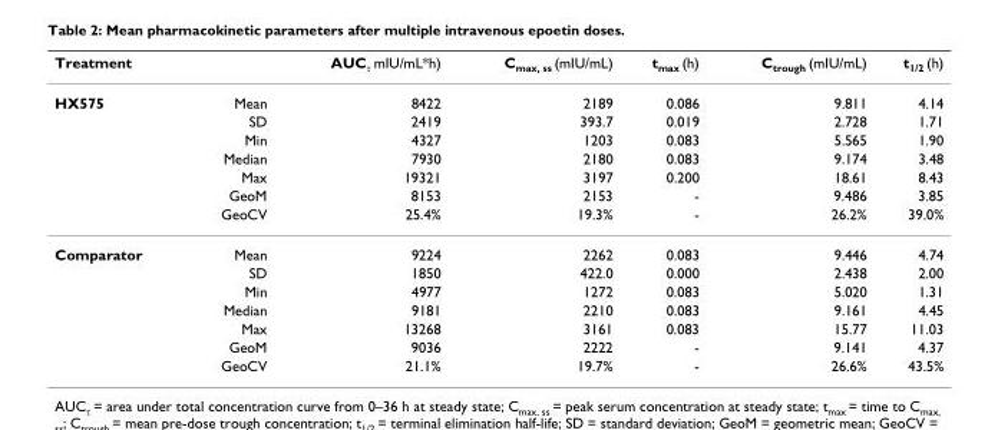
<table><thead><tr><td>Treatment</td><td></td><td>AUC<sub>τ</sub> mIU/mL*h)</td><td>C<sub>max, ss</sub> (mIU/mL)</td><td>t<sub>max</sub> (h)</td><td>C<sub>trough</sub> (mIU/mL)</td><td>t<sub>1/2</sub> (h)</td></tr></thead><tbody><tr><td rowspan="7">HX575</td><td>Mean</td><td>8422</td><td>2189</td><td>0.086</td><td>9.811</td><td>4.14</td></tr><tr><td>SD</td><td>2419</td><td>393.7</td><td>0.019</td><td>2.728</td><td>1.71</td></tr><tr><td>Min</td><td>4327</td><td>1203</td><td>0.083</td><td>5.565</td><td>1.90</td></tr><tr><td>Median</td><td>7930</td><td>2180</td><td>0.083</td><td>9.174</td><td>3.48</td></tr><tr><td>Max</td><td>19321</td><td>3197</td><td>0.200</td><td>18.61</td><td>8.43</td></tr><tr><td>GeoM</td><td>8153</td><td>2153</td><td>-</td><td>9.486</td><td>3.85</td></tr><tr><td>GeoCV</td><td>25.4%</td><td>19.3%</td><td>-</td><td>26.2%</td><td>39.0%</td></tr><tr><td rowspan="7">Comparator</td><td>Mean</td><td>9224</td><td>2262</td><td>0.083</td><td>9.446</td><td>4.74</td></tr><tr><td>SD</td><td>1850</td><td>422.0</td><td>0.000</td><td>2.438</td><td>2.00</td></tr><tr><td>Min</td><td>4977</td><td>1272</td><td>0.083</td><td>5.020</td><td>1.31</td></tr><tr><td>Median</td><td>9181</td><td>2210</td><td>0.083</td><td>9.161</td><td>4.45</td></tr><tr><td>Max</td><td>13268</td><td>3161</td><td>0.083</td><td>15.77</td><td>11.03</td></tr><tr><td>GeoM</td><td>9036</td><td>2222</td><td>-</td><td>9.141</td><td>4.37</td></tr><tr><td>GeoCV</td><td>21.1%</td><td>19.7%</td><td>-</td><td>26.6%</td><td>43.5%</td></tr></tbody></table>